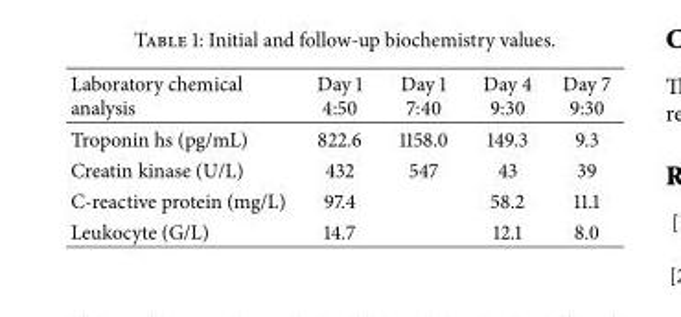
<table><thead><tr><td>Laboratory chemical analysis</td><td>Day 1 4:50</td><td>Day 1 7:40</td><td>Day 4 9:30</td><td>Day 7 9:30</td></tr></thead><tbody><tr><td>Troponin hs (pg/mL)</td><td>822.6</td><td>1158.0</td><td>149.3</td><td>9.3</td></tr><tr><td>Creatin kinase (U/L)</td><td>432</td><td>547</td><td>43</td><td>39</td></tr><tr><td>C-reactive protein (mg/L)</td><td>97.4</td><td></td><td>58.2</td><td>11.1</td></tr><tr><td>Leukocyte (G/L)</td><td>14.7</td><td></td><td>12.1</td><td>8.0</td></tr></tbody></table>